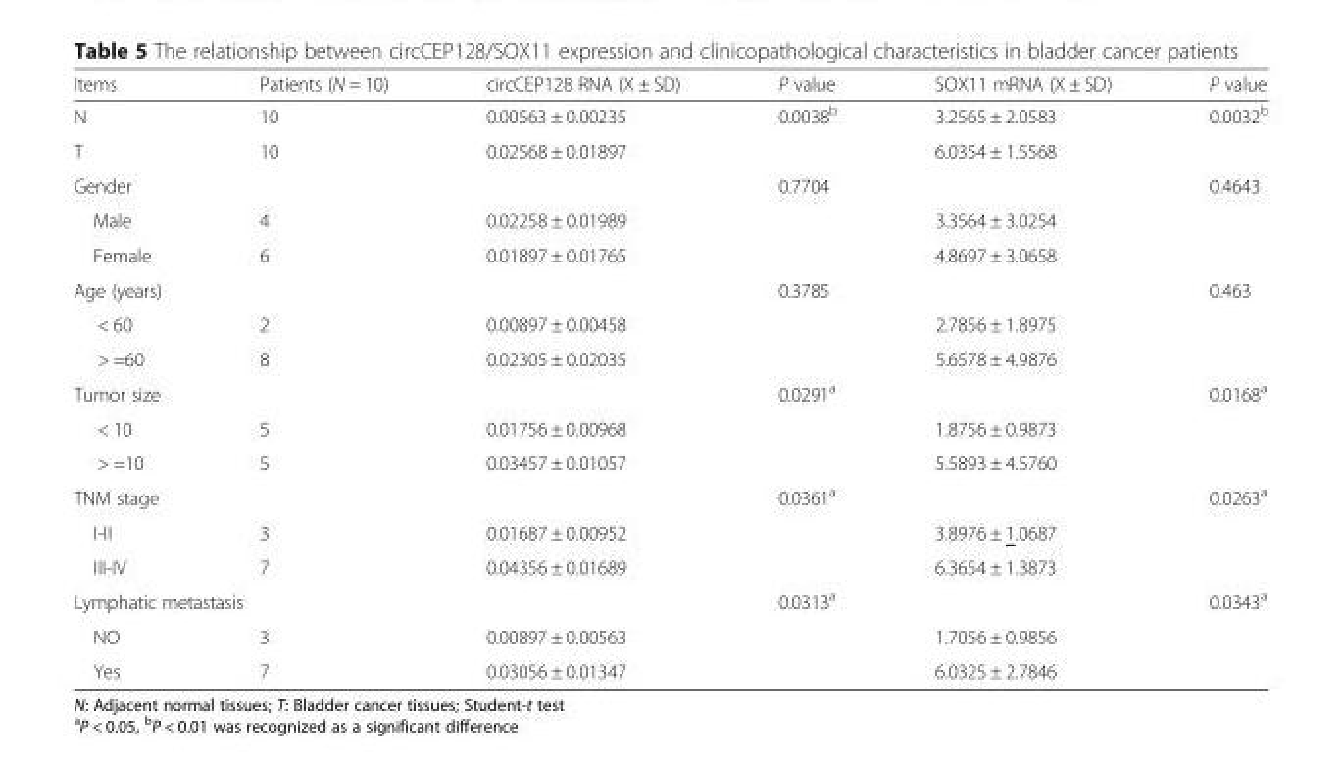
<table><thead><tr><td>Items</td><td>Patients (N = 10)</td><td>circCEP128 RNA (X ± SD)</td><td>P value</td><td>SOX11 mRNA (X ± SD)</td><td>P value</td></tr></thead><tbody><tr><td>N</td><td>10</td><td>0.00563 ± 0.00235</td><td>0.0038<sup>b</sup></td><td>3.2565 ± 2.0583</td><td>0.0032<sup>b</sup></td></tr><tr><td>T</td><td>10</td><td>0.02568 ± 0.01897</td><td></td><td>6.0354 ± 1.5568</td><td></td></tr><tr><td>Gender</td><td></td><td></td><td>0.7704</td><td></td><td>0.4643</td></tr><tr><td>Male</td><td>4</td><td>0.02258 ± 0.01989</td><td></td><td>3.3564 ± 3.0254</td><td></td></tr><tr><td>Female</td><td>6</td><td>0.01897 ± 0.01765</td><td></td><td>4.8697 ± 3.0658</td><td></td></tr><tr><td>Age (years)</td><td></td><td></td><td>0.3785</td><td></td><td>0.463</td></tr><tr><td>&lt; 60</td><td>2</td><td>0.00897 ± 0.00458</td><td></td><td>2.7856 ± 1.8975</td><td></td></tr><tr><td>&gt; =60</td><td>8</td><td>0.02305 ± 0.02035</td><td></td><td>5.6578 ± 4.9876</td><td></td></tr><tr><td>Tumor size</td><td></td><td></td><td>0.0291<sup>a</sup></td><td></td><td>0.0168<sup>a</sup></td></tr><tr><td>&lt; 10</td><td>5</td><td>0.01756 ± 0.00968</td><td></td><td>1.8756 ± 0.9873</td><td></td></tr><tr><td>&gt; =10</td><td>5</td><td>0.03457 ± 0.01057</td><td></td><td>5.5893 ± 4.5760</td><td></td></tr><tr><td>TNM stage</td><td></td><td></td><td>0.0361<sup>a</sup></td><td></td><td>0.0263<sup>a</sup></td></tr><tr><td>I-II</td><td>3</td><td>0.01687 ± 0.00952</td><td></td><td>3.8976 ± 1.0687</td><td></td></tr><tr><td>III-IV</td><td>7</td><td>0.04356 ± 0.01689</td><td></td><td>6.3654 ± 1.3873</td><td></td></tr><tr><td colspan="2">Lymphatic metastasis</td><td></td><td>0.0313<sup>a</sup></td><td></td><td>0.0343<sup>a</sup></td></tr><tr><td>NO</td><td>3</td><td>0.00897 ± 0.00563</td><td></td><td>1.7056 ± 0.9856</td><td></td></tr><tr><td>Yes</td><td>7</td><td>0.03056 ± 0.01347</td><td></td><td>6.0325 ± 2.7846</td><td></td></tr></tbody></table>